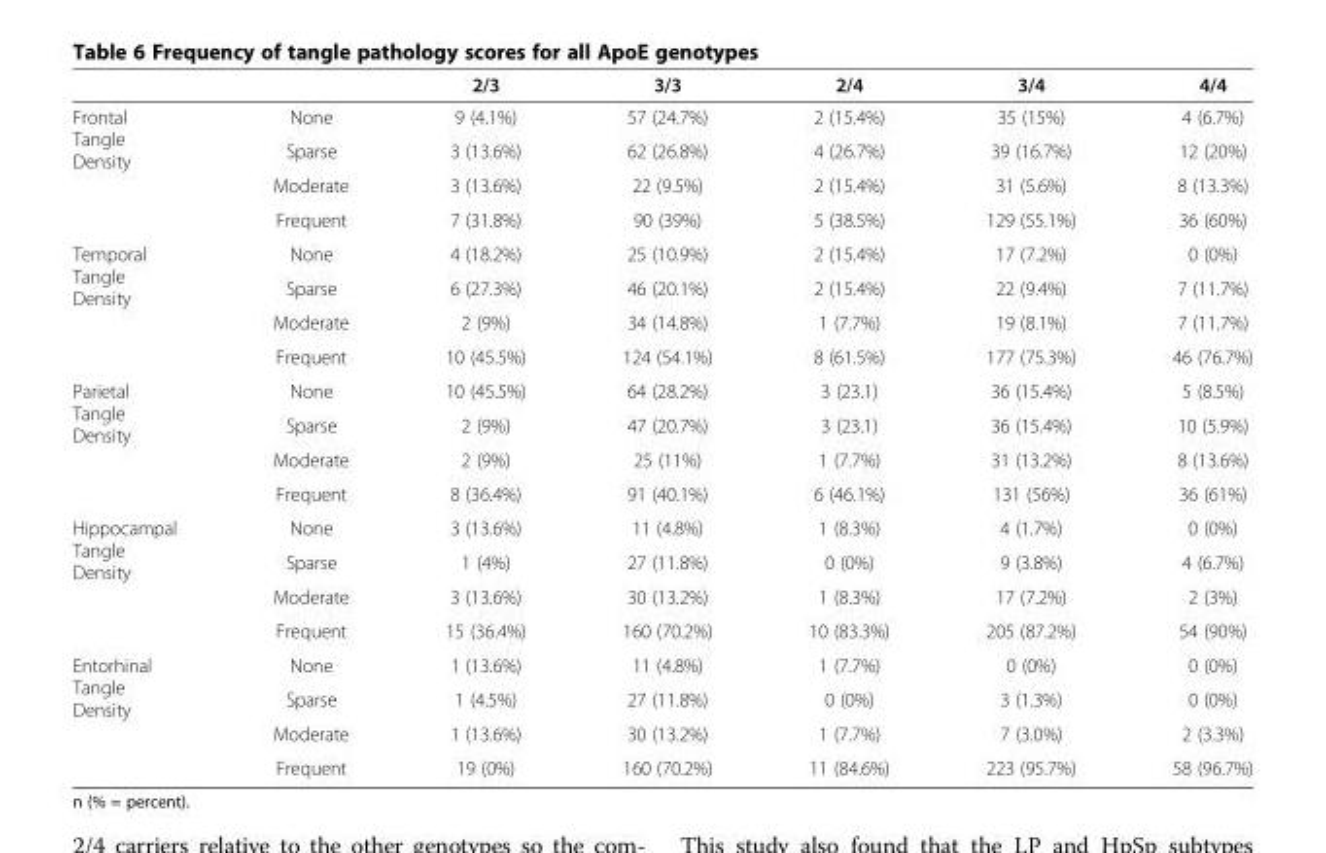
<table><thead><tr><td></td><td></td><td>2/3</td><td>3/3</td><td>2/4</td><td>3/4</td><td>4/4</td></tr></thead><tbody><tr><td rowspan="4">Frontal Tangle Density</td><td>None</td><td>9 (4.1%)</td><td>57 (24.7%)</td><td>2 (15.4%)</td><td>35 (15%)</td><td>4 (6.7%)</td></tr><tr><td>Sparse</td><td>3 (13.6%)</td><td>62 (26.8%)</td><td>4 (26.7%)</td><td>39 (16.7%)</td><td>12 (20%)</td></tr><tr><td>Moderate</td><td>3 (13.6%)</td><td>22 (9.5%)</td><td>2 (15.4%)</td><td>31 (5.6%)</td><td>8 (13.3%)</td></tr><tr><td>Frequent</td><td>7 (31.8%)</td><td>90 (39%)</td><td>5 (38.5%)</td><td>129 (55.1%)</td><td>36 (60%)</td></tr><tr><td rowspan="4">Temporal Tangle Density</td><td>None</td><td>4 (18.2%)</td><td>25 (10.9%)</td><td>2 (15.4%)</td><td>17 (7.2%)</td><td>0 (0%)</td></tr><tr><td>Sparse</td><td>6 (27.3%)</td><td>46 (20.1%)</td><td>2 (15.4%)</td><td>22 (9.4%)</td><td>7 (11.7%)</td></tr><tr><td>Moderate</td><td>2 (9%)</td><td>34 (14.8%)</td><td>1 (7.7%)</td><td>19 (8.1%)</td><td>7 (11.7%)</td></tr><tr><td>Frequent</td><td>10 (45.5%)</td><td>124 (54.1%)</td><td>8 (61.5%)</td><td>177 (75.3%)</td><td>46 (76.7%)</td></tr><tr><td rowspan="4">Parietal Tangle Density</td><td>None</td><td>10 (45.5%)</td><td>64 (28.2%)</td><td>3 (23.1)</td><td>36 (15.4%)</td><td>5 (8.5%)</td></tr><tr><td>Sparse</td><td>2 (9%)</td><td>47 (20.7%)</td><td>3 (23.1)</td><td>36 (15.4%)</td><td>10 (5.9%)</td></tr><tr><td>Moderate</td><td>2 (9%)</td><td>25 (11%)</td><td>1 (7.7%)</td><td>31 (13.2%)</td><td>8 (13.6%)</td></tr><tr><td>Frequent</td><td>8 (36.4%)</td><td>91 (40.1%)</td><td>6 (46.1%)</td><td>131 (56%)</td><td>36 (61%)</td></tr><tr><td rowspan="4">Hippocampal Tangle Density</td><td>None</td><td>3 (13.6%)</td><td>11 (4.8%)</td><td>1 (8.3%)</td><td>4 (1.7%)</td><td>0 (0%)</td></tr><tr><td>Sparse</td><td>1 (4%)</td><td>27 (11.8%)</td><td>0 (0%)</td><td>9 (3.8%)</td><td>4 (6.7%)</td></tr><tr><td>Moderate</td><td>3 (13.6%)</td><td>30 (13.2%)</td><td>1 (8.3%)</td><td>17 (7.2%)</td><td>2 (3%)</td></tr><tr><td>Frequent</td><td>15 (36.4%)</td><td>160 (70.2%)</td><td>10 (83.3%)</td><td>205 (87.2%)</td><td>54 (90%)</td></tr><tr><td rowspan="4">Entorhinal Tangle Density</td><td>None</td><td>1 (13.6%)</td><td>11 (4.8%)</td><td>1 (7.7%)</td><td>0 (0%)</td><td>0 (0%)</td></tr><tr><td>Sparse</td><td>1 (4.5%)</td><td>27 (11.8%)</td><td>0 (0%)</td><td>3 (1.3%)</td><td>0 (0%)</td></tr><tr><td>Moderate</td><td>1 (13.6%)</td><td>30 (13.2%)</td><td>1 (7.7%)</td><td>7 (3.0%)</td><td>2 (3.3%)</td></tr><tr><td>Frequent</td><td>19 (0%)</td><td>160 (70.2%)</td><td>11 (84.6%)</td><td>223 (95.7%)</td><td>58 (96.7%)</td></tr></tbody></table>